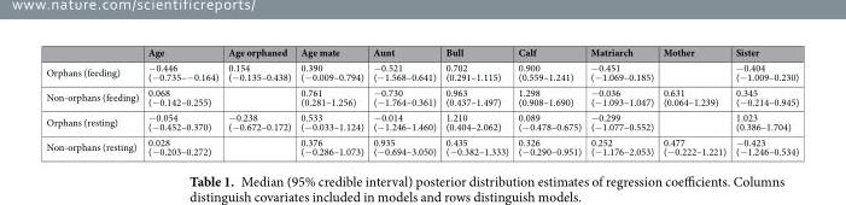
<table><thead><tr><td></td><td>Age</td><td>Age orphaned</td><td>Age mate</td><td>Aunt</td><td>Bull</td><td>Calf</td><td>Matriarch</td><td>Mother</td><td>Sister</td></tr></thead><tbody><tr><td>Orphans (feeding)</td><td>−0.446 (−0.735–−0.164)</td><td>0.154 (−0.135–0.438)</td><td>0.390 (−0.009–0.794)</td><td>−0.521 (−1.568–0.641)</td><td>0.702 (0.291–1.115)</td><td>0.900 (0.559–1.241)</td><td>−0.451 (−1.069–0.185)</td><td></td><td>−0.404 (−1.009–0.230)</td></tr><tr><td>Non-orphans (feeding)</td><td>0.068 (−0.142–0.255)</td><td></td><td>0.761 (0.281–1.256)</td><td>−0.730 (−1.764–0.361)</td><td>0.963 (0.437–1.497)</td><td>1.298 (0.908–1.690)</td><td>−0.036 (−1.093–1.047)</td><td>0.631 (0.064–1.239)</td><td>0.345 (−0.214–0.945)</td></tr><tr><td>Orphans (resting)</td><td>−0.054 (−0.452–0.370)</td><td>−0.238 (−0.672–0.172)</td><td>0.533 (−0.033–1.124)</td><td>−0.014 (−1.246–1.460)</td><td>1.210 (0.404–2.062)</td><td>0.089 (−0.478–0.675)</td><td>−0.299 (−1.077–0.552)</td><td></td><td>1.023 (0.386–1.704)</td></tr><tr><td>Non-orphans (resting)</td><td>0.028 (−0.203–0.272)</td><td></td><td>0.376 (−0.286–1.073)</td><td>0.935 (−0.694–3.050)</td><td>0.435 (−0.382–1.333)</td><td>0.326 (−0.290–0.951)</td><td>0.252 (−1.176–2.053)</td><td>0.477 (−0.222–1.221)</td><td>−0.423 (−1.246–0.534)</td></tr></tbody></table>